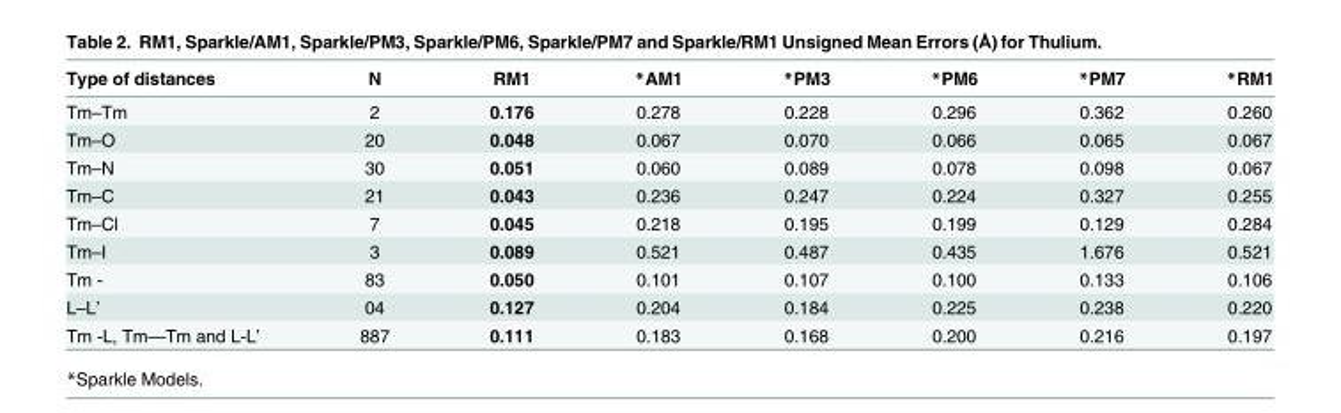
<table><thead><tr><td>Type of distances</td><td>N</td><td>RM1</td><td>*AM1</td><td>*PM3</td><td>*PM6</td><td>*PM7</td><td>*RM1</td></tr></thead><tbody><tr><td>Tm–Tm</td><td>2</td><td>0.176</td><td>0.278</td><td>0.228</td><td>0.296</td><td>0.362</td><td>0.260</td></tr><tr><td>Tm–O</td><td>20</td><td>0.048</td><td>0.067</td><td>0.070</td><td>0.066</td><td>0.065</td><td>0.067</td></tr><tr><td>Tm–N</td><td>30</td><td>0.051</td><td>0.060</td><td>0.089</td><td>0.078</td><td>0.098</td><td>0.067</td></tr><tr><td>Tm–C</td><td>21</td><td>0.043</td><td>0.236</td><td>0.247</td><td>0.224</td><td>0.327</td><td>0.255</td></tr><tr><td>Tm–Cl</td><td>7</td><td>0.045</td><td>0.218</td><td>0.195</td><td>0.199</td><td>0.129</td><td>0.284</td></tr><tr><td>Tm–I</td><td>3</td><td>0.089</td><td>0.521</td><td>0.487</td><td>0.435</td><td>1.676</td><td>0.521</td></tr><tr><td>Tm -</td><td>83</td><td>0.050</td><td>0.101</td><td>0.107</td><td>0.100</td><td>0.133</td><td>0.106</td></tr><tr><td>L–L’</td><td>04</td><td>0.127</td><td>0.204</td><td>0.184</td><td>0.225</td><td>0.238</td><td>0.220</td></tr><tr><td>Tm -L, Tm—Tm and L-L’</td><td>887</td><td>0.111</td><td>0.183</td><td>0.168</td><td>0.200</td><td>0.216</td><td>0.197</td></tr></tbody></table>